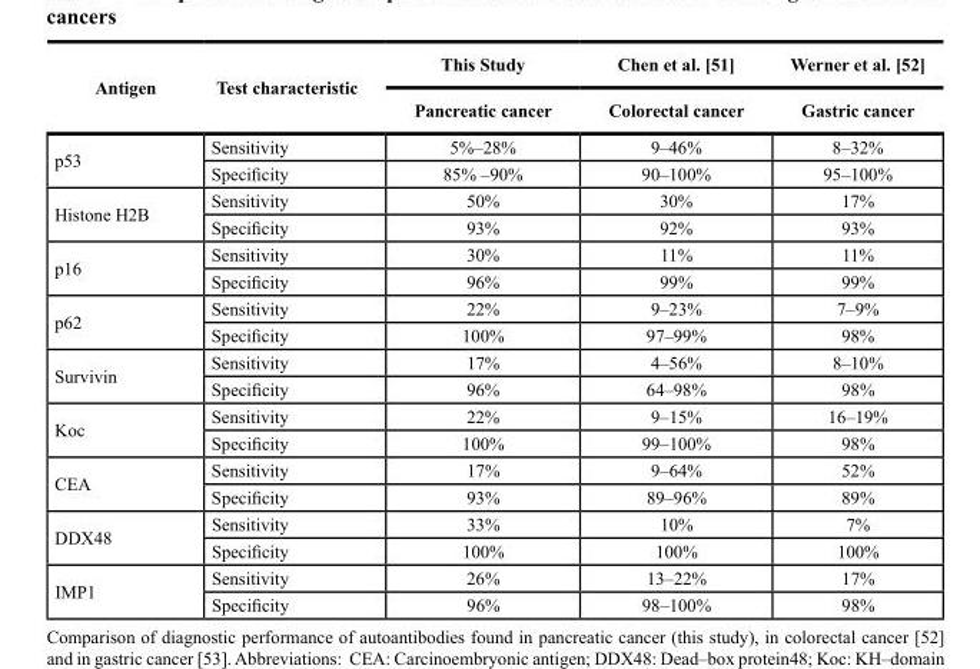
<table><thead><tr><td rowspan="2">Antigen</td><td rowspan="2">test characteristic</td><td rowspan="2">this study Pancreatic cancer</td><td rowspan="2">chen et al. [51] colorectal cancer</td><td rowspan="2">Werner et al. [52] Gastric cancer</td></tr><tr></tr></thead><tbody><tr><td rowspan="2">p53</td><td>Sensitivity</td><td>5%–28%</td><td>9–46%</td><td>8–32%</td></tr><tr><td>Specificity</td><td>85% –90%</td><td>90–100%</td><td>95–100%</td></tr><tr><td rowspan="2">Histone H2B</td><td>Sensitivity</td><td>50%</td><td>30%</td><td>17%</td></tr><tr><td>Specificity</td><td>93%</td><td>92%</td><td>93%</td></tr><tr><td rowspan="2">p16</td><td>Sensitivity</td><td>30%</td><td>11%</td><td>11%</td></tr><tr><td>Specificity</td><td>96%</td><td>99%</td><td>99%</td></tr><tr><td rowspan="2">p62</td><td>Sensitivity</td><td>22%</td><td>9–23%</td><td>7–9%</td></tr><tr><td>Specificity</td><td>100%</td><td>97–99%</td><td>98%</td></tr><tr><td rowspan="2">Survivin</td><td>Sensitivity</td><td>17%</td><td>4–56%</td><td>8–10%</td></tr><tr><td>Specificity</td><td>96%</td><td>64–98%</td><td>98%</td></tr><tr><td rowspan="2">Koc</td><td>Sensitivity</td><td>22%</td><td>9–15%</td><td>16–19%</td></tr><tr><td>Specificity</td><td>100%</td><td>99–100%</td><td>98%</td></tr><tr><td rowspan="2">CEA</td><td>Sensitivity</td><td>17%</td><td>9–64%</td><td>52%</td></tr><tr><td>Specificity</td><td>93%</td><td>89–96%</td><td>89%</td></tr><tr><td rowspan="2">DDX48</td><td>Sensitivity</td><td>33%</td><td>10%</td><td>7%</td></tr><tr><td>Specificity</td><td>100%</td><td>100%</td><td>100%</td></tr><tr><td rowspan="2">IMP1</td><td>Sensitivity</td><td>26%</td><td>13–22%</td><td>17%</td></tr><tr><td>Specificity</td><td>96%</td><td>98–100%</td><td>98%</td></tr></tbody></table>